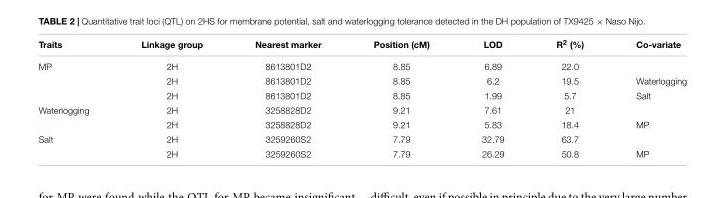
<table><thead><tr><td>Traits</td><td>Linkage group</td><td>Nearest marker</td><td>Position (cM)</td><td>LOD</td><td>R<sup>2</sup> (%)</td><td>Co-variate</td></tr></thead><tbody><tr><td rowspan="3">MP</td><td>2H</td><td>8613801D2</td><td>8.85</td><td>6.89</td><td>22.0</td><td></td></tr><tr><td>2H</td><td>8613801D2</td><td>8.85</td><td>6.2</td><td>19.5</td><td>Waterlogging</td></tr><tr><td>2H</td><td>8613801D2</td><td>8.85</td><td>1.99</td><td>5.7</td><td>Salt</td></tr><tr><td rowspan="2">Waterlogging</td><td>2H</td><td>3258828D2</td><td>9.21</td><td>7.61</td><td>21</td><td></td></tr><tr><td>2H</td><td>3258828D2</td><td>9.21</td><td>5.83</td><td>18.4</td><td>MP</td></tr><tr><td rowspan="2">Salt</td><td>2H</td><td>3259260S2</td><td>7.79</td><td>32.79</td><td>63.7</td><td></td></tr><tr><td>2H</td><td>3259260S2</td><td>7.79</td><td>26.29</td><td>50.8</td><td>MP</td></tr></tbody></table>